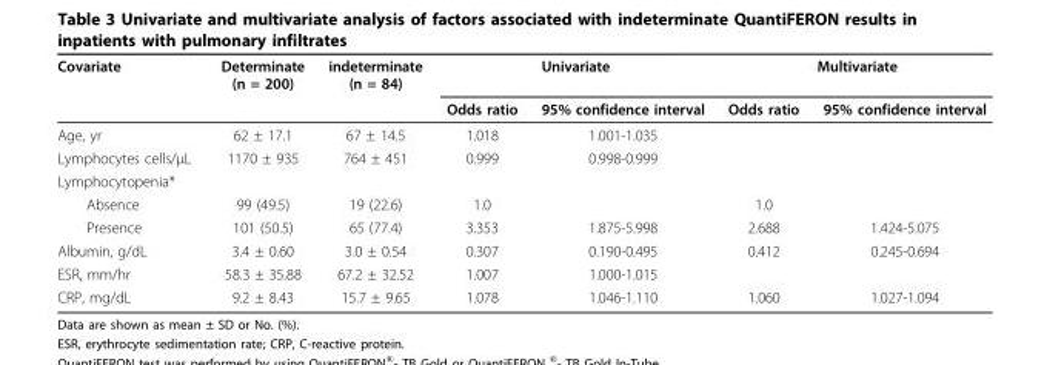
<table><thead><tr><td rowspan="2">Covariate</td><td rowspan="2">Determinate (n = 200)</td><td rowspan="2">indeterminate (n = 84)</td><td colspan="2">Univariate</td><td colspan="2">Multivariate</td></tr><tr><td>Odds ratio</td><td>95% confidence interval</td><td>Odds ratio</td><td>95% confidence interval</td></tr></thead><tbody><tr><td>Age, yr</td><td>62 ± 17.1</td><td>67 ± 14.5</td><td>1.018</td><td>1.001-1.035</td><td></td><td></td></tr><tr><td>Lymphocytes cells/μL</td><td>1170 ± 935</td><td>764 ± 451</td><td>0.999</td><td>0.998-0.999</td><td></td><td></td></tr><tr><td colspan="7">Lymphocytopenia*</td></tr><tr><td>Absence</td><td>99 (49.5)</td><td>19 (22.6)</td><td>1.0</td><td></td><td>1.0</td><td></td></tr><tr><td>Presence</td><td>101 (50.5)</td><td>65 (77.4)</td><td>3.353</td><td>1.875-5.998</td><td>2.688</td><td>1.424-5.075</td></tr><tr><td>Albumin, g/dL</td><td>3.4 ± 0.60</td><td>3.0 ± 0.54</td><td>0.307</td><td>0.190-0.495</td><td>0.412</td><td>0.245-0.694</td></tr><tr><td>ESR, mm/hr</td><td>58.3 ± 35.88</td><td>67.2 ± 32.52</td><td>1.007</td><td>1.000-1.015</td><td></td><td></td></tr><tr><td>CRP, mg/dL</td><td>9.2 ± 8.43</td><td>15.7 ± 9.65</td><td>1.078</td><td>1.046-1.110</td><td>1.060</td><td>1.027-1.094</td></tr></tbody></table>